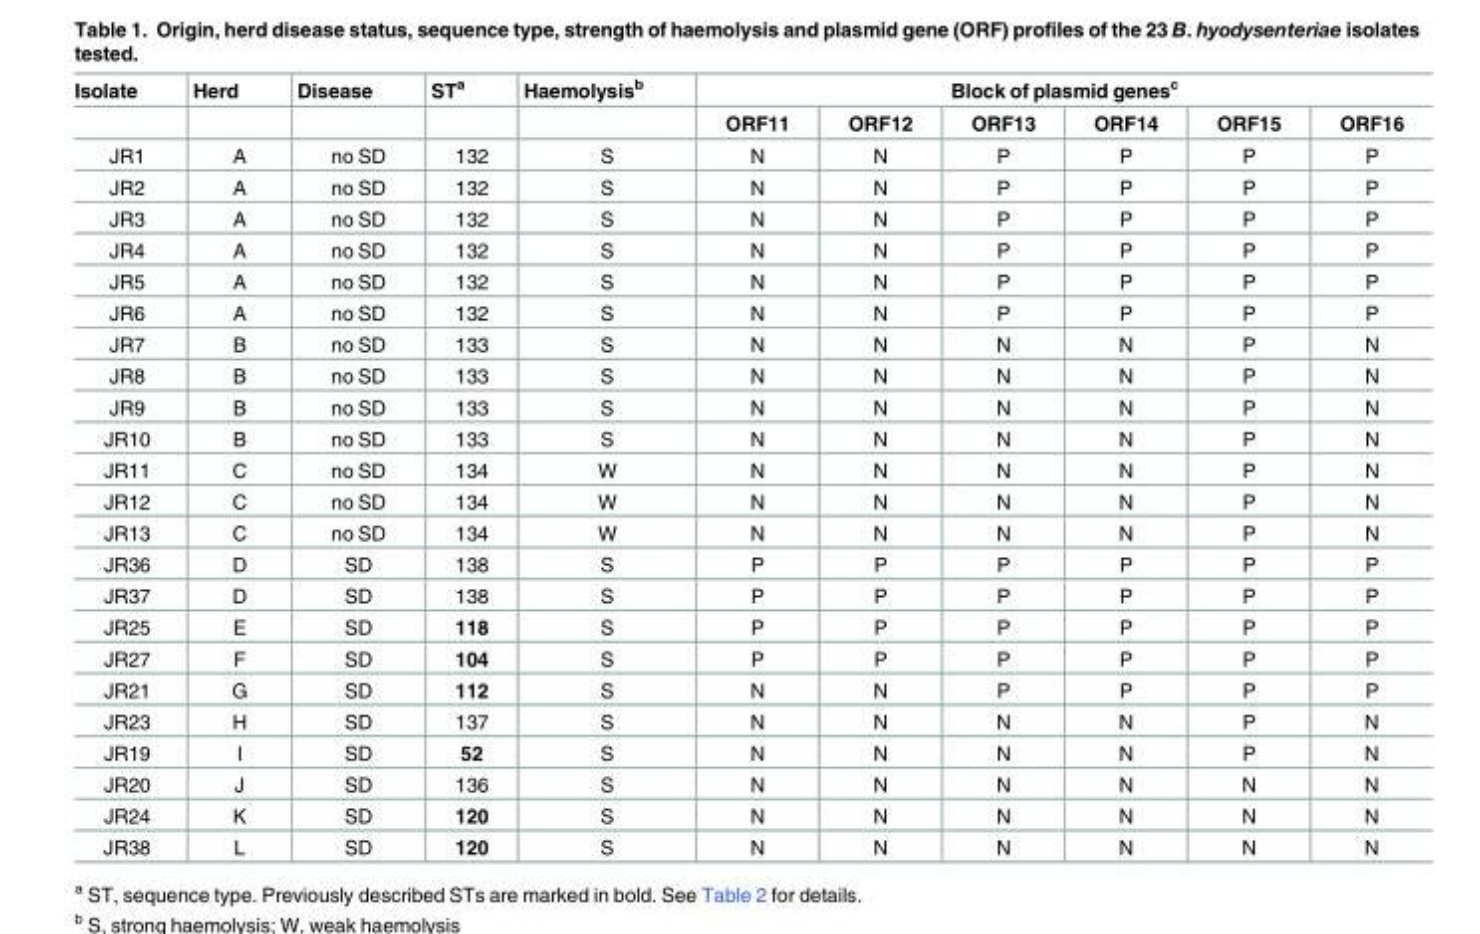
<table><thead><tr><td rowspan="2">Isolate</td><td rowspan="2">Herd</td><td rowspan="2">Disease</td><td rowspan="2">ST<sup>a</sup></td><td rowspan="2">Haemolysis<sup>b</sup></td><td colspan="6">Block of plasmid genes<sup>c</sup></td></tr><tr><td>ORF11</td><td>ORF12</td><td>ORF13</td><td>ORF14</td><td>ORF15</td><td>ORF16</td></tr></thead><tbody><tr><td>JR1</td><td>A</td><td>no SD</td><td>132</td><td>S</td><td>N</td><td>N</td><td>P</td><td>P</td><td>P</td><td>P</td></tr><tr><td>JR2</td><td>A</td><td>no SD</td><td>132</td><td>S</td><td>N</td><td>N</td><td>P</td><td>P</td><td>P</td><td>P</td></tr><tr><td>JR3</td><td>A</td><td>no SD</td><td>132</td><td>S</td><td>N</td><td>N</td><td>P</td><td>P</td><td>P</td><td>P</td></tr><tr><td>JR4</td><td>A</td><td>no SD</td><td>132</td><td>S</td><td>N</td><td>N</td><td>P</td><td>P</td><td>P</td><td>P</td></tr><tr><td>JR5</td><td>A</td><td>no SD</td><td>132</td><td>S</td><td>N</td><td>N</td><td>P</td><td>P</td><td>P</td><td>P</td></tr><tr><td>JR6</td><td>A</td><td>no SD</td><td>132</td><td>S</td><td>N</td><td>N</td><td>P</td><td>P</td><td>P</td><td>P</td></tr><tr><td>JR7</td><td>B</td><td>no SD</td><td>133</td><td>S</td><td>N</td><td>N</td><td>N</td><td>N</td><td>P</td><td>N</td></tr><tr><td>JR8</td><td>B</td><td>no SD</td><td>133</td><td>S</td><td>N</td><td>N</td><td>N</td><td>N</td><td>P</td><td>N</td></tr><tr><td>JR9</td><td>B</td><td>no SD</td><td>133</td><td>S</td><td>N</td><td>N</td><td>N</td><td>N</td><td>P</td><td>N</td></tr><tr><td>JR10</td><td>B</td><td>no SD</td><td>133</td><td>S</td><td>N</td><td>N</td><td>N</td><td>N</td><td>P</td><td>N</td></tr><tr><td>JR11</td><td>C</td><td>no SD</td><td>134</td><td>W</td><td>N</td><td>N</td><td>N</td><td>N</td><td>P</td><td>N</td></tr><tr><td>JR12</td><td>C</td><td>no SD</td><td>134</td><td>W</td><td>N</td><td>N</td><td>N</td><td>N</td><td>P</td><td>N</td></tr><tr><td>JR13</td><td>C</td><td>no SD</td><td>134</td><td>W</td><td>N</td><td>N</td><td>N</td><td>N</td><td>P</td><td>N</td></tr><tr><td>JR36</td><td>D</td><td>SD</td><td>138</td><td>S</td><td>P</td><td>P</td><td>P</td><td>P</td><td>P</td><td>P</td></tr><tr><td>JR37</td><td>D</td><td>SD</td><td>138</td><td>S</td><td>P</td><td>P</td><td>P</td><td>P</td><td>P</td><td>P</td></tr><tr><td>JR25</td><td>E</td><td>SD</td><td>118</td><td>S</td><td>P</td><td>P</td><td>P</td><td>P</td><td>P</td><td>P</td></tr><tr><td>JR27</td><td>F</td><td>SD</td><td>104</td><td>S</td><td>P</td><td>P</td><td>P</td><td>P</td><td>P</td><td>P</td></tr><tr><td>JR21</td><td>G</td><td>SD</td><td>112</td><td>S</td><td>N</td><td>N</td><td>P</td><td>P</td><td>P</td><td>P</td></tr><tr><td>JR23</td><td>H</td><td>SD</td><td>137</td><td>S</td><td>N</td><td>N</td><td>N</td><td>N</td><td>P</td><td>N</td></tr><tr><td>JR19</td><td>I</td><td>SD</td><td>52</td><td>S</td><td>N</td><td>N</td><td>N</td><td>N</td><td>P</td><td>N</td></tr><tr><td>JR20</td><td>J</td><td>SD</td><td>136</td><td>S</td><td>N</td><td>N</td><td>N</td><td>N</td><td>N</td><td>N</td></tr><tr><td>JR24</td><td>K</td><td>SD</td><td>120</td><td>S</td><td>N</td><td>N</td><td>N</td><td>N</td><td>N</td><td>N</td></tr><tr><td>JR38</td><td>L</td><td>SD</td><td>120</td><td>S</td><td>N</td><td>N</td><td>N</td><td>N</td><td>N</td><td>N</td></tr></tbody></table>